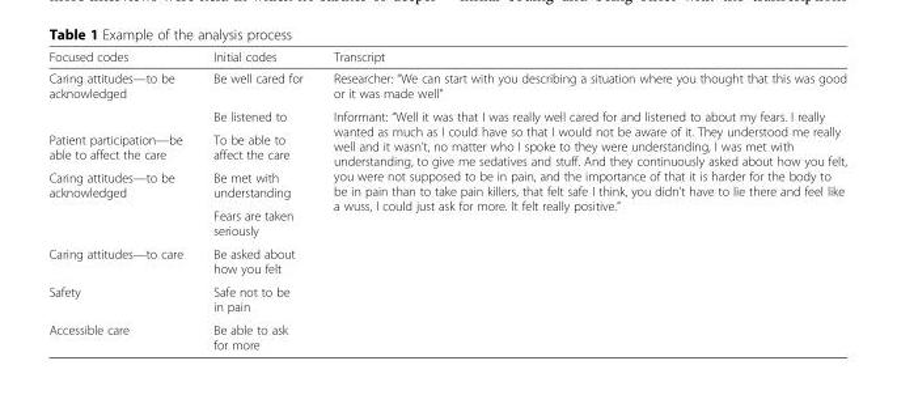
<table><thead><tr><td>Focused codes</td><td>Initial codes</td><td>Transcript</td></tr></thead><tbody><tr><td rowspan="2">Caring attitudes—to be acknowledged</td><td>Be well cared for</td><td>Researcher: “We can start with you describing a situation where you thought that this was good or it was made well”</td></tr><tr><td>Be listened to</td><td rowspan="7">Informant: “Well it was that I was really well cared for and listened to about my fears. I really wanted as much as I could have so that I would not be aware of it. They understood me really well and it wasn’t, no matter who I spoke to they were understanding, I was met with understanding, to give me sedatives and stuff. And they continuously asked about how you felt, you were not supposed to be in pain, and the importance of that it is harder for the body to be in pain than to take pain killers, that felt safe I think, you didn’t have to lie there and feel like a wuss, I could just ask for more. It felt really positive.”</td></tr><tr><td>Patient participation—be able to affect the care</td><td>To be able to affect the care</td></tr><tr><td rowspan="2">Caring attitudes—to be acknowledged</td><td>Be met with understanding</td></tr><tr><td>Fears are taken seriously</td></tr><tr><td>Caring attitudes—to care</td><td>Be asked about how you felt</td></tr><tr><td>Safety</td><td>Safe not to be in pain</td></tr><tr><td>Accessible care</td><td>Be able to ask for more</td></tr></tbody></table>